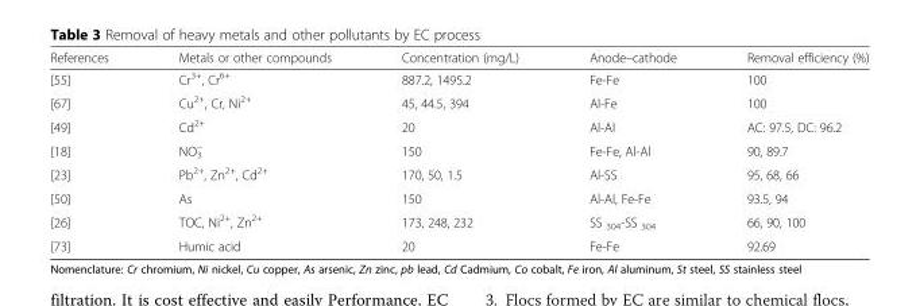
<table><thead><tr><td>References</td><td>Metals or other compounds</td><td>Concentration (mg/L)</td><td>Anode–cathode</td><td>Removal efficiency (%)</td></tr></thead><tbody><tr><td>[55]</td><td>Cr<sup>3+</sup>, Cr<sup>6+</sup></td><td>887.2, 1495.2</td><td>Fe-Fe</td><td>100</td></tr><tr><td>[67]</td><td>Cu<sup>2+</sup>, Cr, Ni<sup>2+</sup></td><td>45, 44.5, 394</td><td>Al-Fe</td><td>100</td></tr><tr><td>[49]</td><td>Cd<sup>2+</sup></td><td>20</td><td>Al-Al</td><td>AC: 97.5, DC: 96.2</td></tr><tr><td>[18]</td><td>NO<sub>3</sub> <sup>−</sup></td><td>150</td><td>Fe-Fe, Al-Al</td><td>90, 89.7</td></tr><tr><td>[23]</td><td>Pb<sup>2+</sup>, Zn<sup>2+</sup>, Cd<sup>2+</sup></td><td>170, 50, 1.5</td><td>Al-SS</td><td>95, 68, 66</td></tr><tr><td>[50]</td><td>As</td><td>150</td><td>Al-Al, Fe-Fe</td><td>93.5, 94</td></tr><tr><td>[26]</td><td>TOC, Ni<sup>2+</sup>, Zn<sup>2+</sup></td><td>173, 248, 232</td><td>SS <sub>304</sub>-SS <sub>304</sub></td><td>66, 90, 100</td></tr><tr><td>[73]</td><td>Humic acid</td><td>20</td><td>Fe-Fe</td><td>92.69</td></tr></tbody></table>